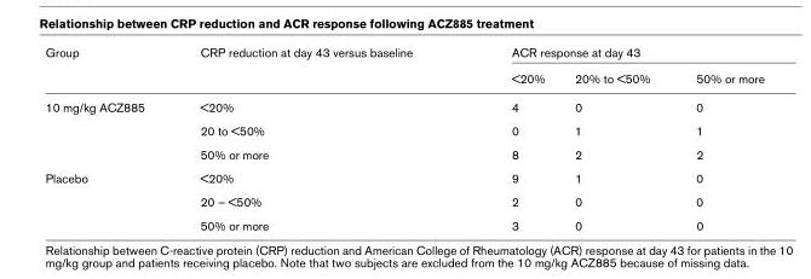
<table><thead><tr><td rowspan="2">Group</td><td rowspan="2">CRP reduction at day 43 versus baseline</td><td colspan="3">ACR response at day 43</td></tr><tr><td>&lt;20%</td><td>20% to &lt;50%</td><td>50% or more</td></tr></thead><tbody><tr><td rowspan="3">10 mg/kg ACZ885</td><td>&lt;20%</td><td>4</td><td>0</td><td>0</td></tr><tr><td>20 to &lt;50%</td><td>0</td><td>1</td><td>1</td></tr><tr><td>50% or more</td><td>8</td><td>2</td><td>2</td></tr><tr><td rowspan="3">Placebo</td><td>&lt;20%</td><td>9</td><td>1</td><td>0</td></tr><tr><td>20 – &lt;50%</td><td>2</td><td>0</td><td>0</td></tr><tr><td>50% or more</td><td>3</td><td>0</td><td>0</td></tr></tbody></table>